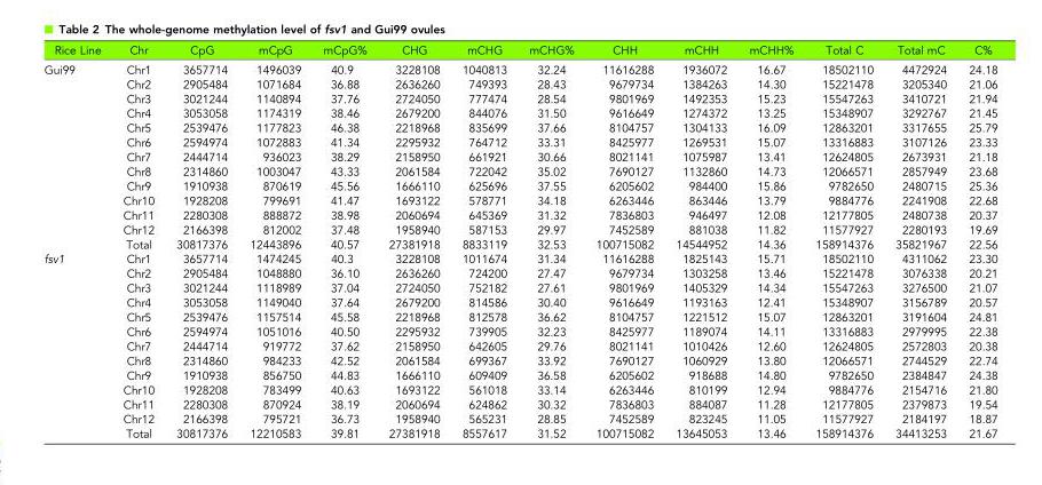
<table><thead><tr><td>Rice Line</td><td>Chr</td><td>CpG</td><td>mCpG</td><td>mCpG%</td><td>CHG</td><td>mCHG</td><td>mCHG%</td><td>CHH</td><td>mCHH</td><td>mCHH%</td><td>Total C</td><td>Total mC</td><td>C%</td></tr></thead><tbody><tr><td rowspan="13">Gui99</td><td>Chr1</td><td>3657714</td><td>1496039</td><td>40.9</td><td>3228108</td><td>1040813</td><td>32.24</td><td>11616288</td><td>1936072</td><td>16.67</td><td>18502110</td><td>4472924</td><td>24.18</td></tr><tr><td>Chr2</td><td>2905484</td><td>1071684</td><td>36.88</td><td>2636260</td><td>749393</td><td>28.43</td><td>9679734</td><td>1384263</td><td>14.30</td><td>15221478</td><td>3205340</td><td>21.06</td></tr><tr><td>Chr3</td><td>3021244</td><td>1140894</td><td>37.76</td><td>2724050</td><td>777474</td><td>28.54</td><td>9801969</td><td>1492353</td><td>15.23</td><td>15547263</td><td>3410721</td><td>21.94</td></tr><tr><td>Chr4</td><td>3053058</td><td>1174319</td><td>38.46</td><td>2679200</td><td>844076</td><td>31.50</td><td>9616649</td><td>1274372</td><td>13.25</td><td>15348907</td><td>3292767</td><td>21.45</td></tr><tr><td>Chr5</td><td>2539476</td><td>1177823</td><td>46.38</td><td>2218968</td><td>835699</td><td>37.66</td><td>8104757</td><td>1304133</td><td>16.09</td><td>12863201</td><td>3317655</td><td>25.79</td></tr><tr><td>Chr6</td><td>2594974</td><td>1072883</td><td>41.34</td><td>2295932</td><td>764712</td><td>33.31</td><td>8425977</td><td>1269531</td><td>15.07</td><td>13316883</td><td>3107126</td><td>23.33</td></tr><tr><td>Chr7</td><td>2444714</td><td>936023</td><td>38.29</td><td>2158950</td><td>661921</td><td>30.66</td><td>8021141</td><td>1075987</td><td>13.41</td><td>12624805</td><td>2673931</td><td>21.18</td></tr><tr><td>Chr8</td><td>2314860</td><td>1003047</td><td>43.33</td><td>2061584</td><td>722042</td><td>35.02</td><td>7690127</td><td>1132860</td><td>14.73</td><td>12066571</td><td>2857949</td><td>23.68</td></tr><tr><td>Chr9</td><td>1910938</td><td>870619</td><td>45.56</td><td>1666110</td><td>625696</td><td>37.55</td><td>6205602</td><td>984400</td><td>15.86</td><td>9782650</td><td>2480715</td><td>25.36</td></tr><tr><td>Chr10</td><td>1928208</td><td>799691</td><td>41.47</td><td>1693122</td><td>578771</td><td>34.18</td><td>6263446</td><td>863446</td><td>13.79</td><td>9884776</td><td>2241908</td><td>22.68</td></tr><tr><td>Chr11</td><td>2280308</td><td>888872</td><td>38.98</td><td>2060694</td><td>645369</td><td>31.32</td><td>7836803</td><td>946497</td><td>12.08</td><td>12177805</td><td>2480738</td><td>20.37</td></tr><tr><td>Chr12</td><td>2166398</td><td>812002</td><td>37.48</td><td>1958940</td><td>587153</td><td>29.97</td><td>7452589</td><td>881038</td><td>11.82</td><td>11577927</td><td>2280193</td><td>19.69</td></tr><tr><td>Total</td><td>30817376</td><td>12443896</td><td>40.57</td><td>27381918</td><td>8833119</td><td>32.53</td><td>100715082</td><td>14544952</td><td>14.36</td><td>158914376</td><td>35821967</td><td>22.56</td></tr><tr><td rowspan="13">fsv1</td><td>Chr1</td><td>3657714</td><td>1474245</td><td>40.3</td><td>3228108</td><td>1011674</td><td>31.34</td><td>11616288</td><td>1825143</td><td>15.71</td><td>18502110</td><td>4311062</td><td>23.30</td></tr><tr><td>Chr2</td><td>2905484</td><td>1048880</td><td>36.10</td><td>2636260</td><td>724200</td><td>27.47</td><td>9679734</td><td>1303258</td><td>13.46</td><td>15221478</td><td>3076338</td><td>20.21</td></tr><tr><td>Chr3</td><td>3021244</td><td>1118989</td><td>37.04</td><td>2724050</td><td>752182</td><td>27.61</td><td>9801969</td><td>1405329</td><td>14.34</td><td>15547263</td><td>3276500</td><td>21.07</td></tr><tr><td>Chr4</td><td>3053058</td><td>1149040</td><td>37.64</td><td>2679200</td><td>814586</td><td>30.40</td><td>9616649</td><td>1193163</td><td>12.41</td><td>15348907</td><td>3156789</td><td>20.57</td></tr><tr><td>Chr5</td><td>2539476</td><td>1157514</td><td>45.58</td><td>2218968</td><td>812578</td><td>36.62</td><td>8104757</td><td>1221512</td><td>15.07</td><td>12863201</td><td>3191604</td><td>24.81</td></tr><tr><td>Chr6</td><td>2594974</td><td>1051016</td><td>40.50</td><td>2295932</td><td>739905</td><td>32.23</td><td>8425977</td><td>1189074</td><td>14.11</td><td>13316883</td><td>2979995</td><td>22.38</td></tr><tr><td>Chr7</td><td>2444714</td><td>919772</td><td>37.62</td><td>2158950</td><td>642605</td><td>29.76</td><td>8021141</td><td>1010426</td><td>12.60</td><td>12624805</td><td>2572803</td><td>20.38</td></tr><tr><td>Chr8</td><td>2314860</td><td>984233</td><td>42.52</td><td>2061584</td><td>699367</td><td>33.92</td><td>7690127</td><td>1060929</td><td>13.80</td><td>12066571</td><td>2744529</td><td>22.74</td></tr><tr><td>Chr9</td><td>1910938</td><td>856750</td><td>44.83</td><td>1666110</td><td>609409</td><td>36.58</td><td>6205602</td><td>918688</td><td>14.80</td><td>9782650</td><td>2384847</td><td>24.38</td></tr><tr><td>Chr10</td><td>1928208</td><td>783499</td><td>40.63</td><td>1693122</td><td>561018</td><td>33.14</td><td>6263446</td><td>810199</td><td>12.94</td><td>9884776</td><td>2154716</td><td>21.80</td></tr><tr><td>Chr11</td><td>2280308</td><td>870924</td><td>38.19</td><td>2060694</td><td>624862</td><td>30.32</td><td>7836803</td><td>884087</td><td>11.28</td><td>12177805</td><td>2379873</td><td>19.54</td></tr><tr><td>Chr12</td><td>2166398</td><td>795721</td><td>36.73</td><td>1958940</td><td>565231</td><td>28.85</td><td>7452589</td><td>823245</td><td>11.05</td><td>11577927</td><td>2184197</td><td>18.87</td></tr><tr><td>Total</td><td>30817376</td><td>12210583</td><td>39.81</td><td>27381918</td><td>8557617</td><td>31.52</td><td>100715082</td><td>13645053</td><td>13.46</td><td>158914376</td><td>34413253</td><td>21.67</td></tr></tbody></table>